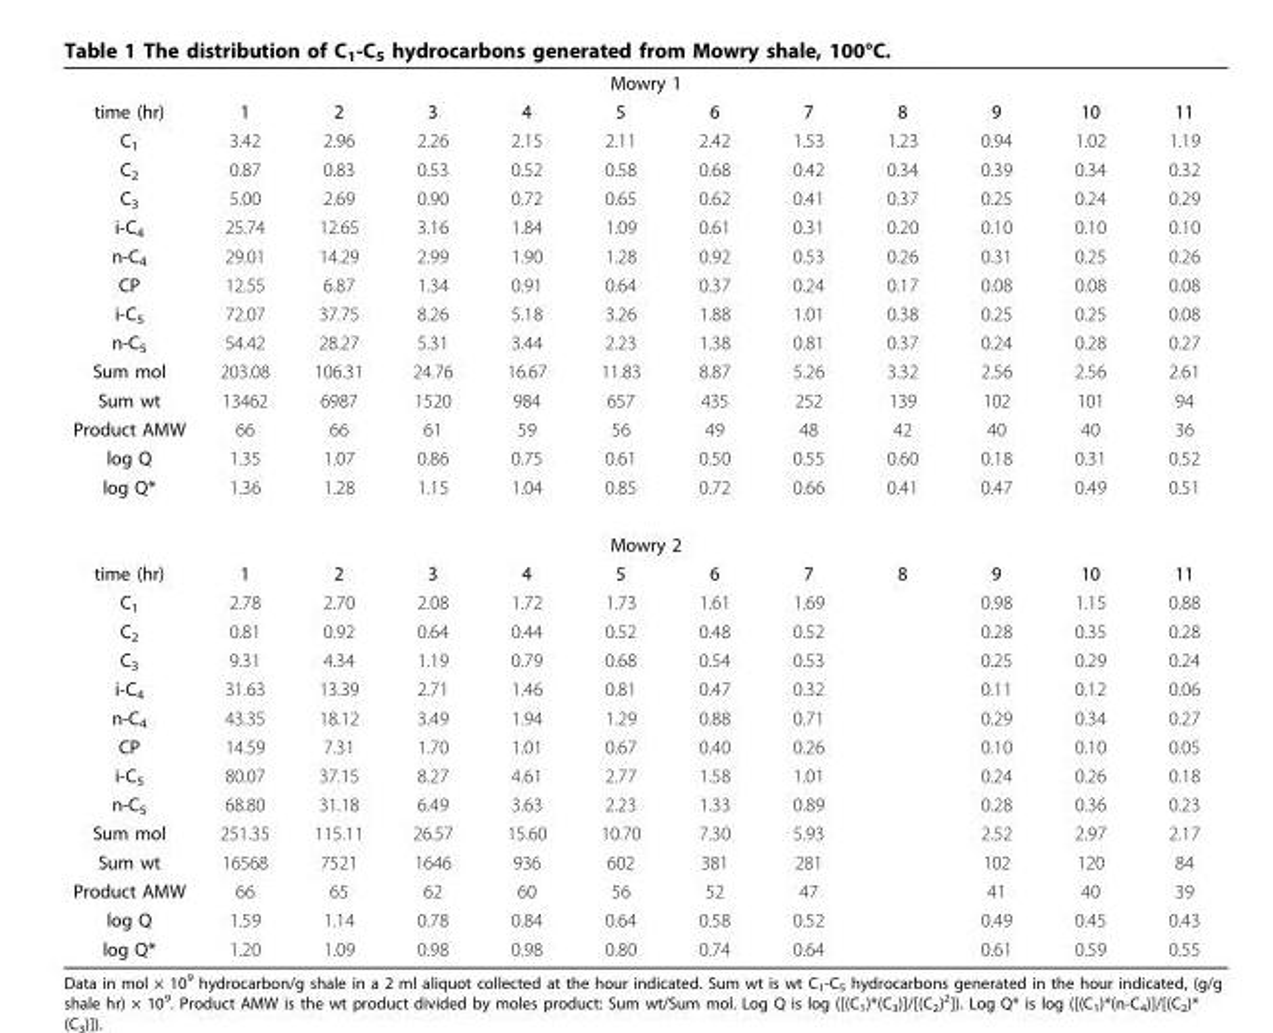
<table><thead><tr><td rowspan="2">time (hr)</td><td colspan="11">Mowry 1</td></tr><tr><td>1</td><td>2</td><td>3</td><td>4</td><td>5</td><td>6</td><td>7</td><td>8</td><td>9</td><td>10</td><td>11</td></tr></thead><tbody><tr><td>C<sub>1</sub></td><td>3.42</td><td>2.96</td><td>2.26</td><td>2.15</td><td>2.11</td><td>2.42</td><td>1.53</td><td>1.23</td><td>0.94</td><td>1.02</td><td>1.19</td></tr><tr><td>C<sub>2</sub></td><td>0.87</td><td>0.83</td><td>0.53</td><td>0.52</td><td>0.58</td><td>0.68</td><td>0.42</td><td>0.34</td><td>0.39</td><td>0.34</td><td>0.32</td></tr><tr><td>C<sub>3</sub></td><td>5.00</td><td>2.69</td><td>0.90</td><td>0.72</td><td>0.65</td><td>0.62</td><td>0.41</td><td>0.37</td><td>0.25</td><td>0.24</td><td>0.29</td></tr><tr><td>i-C<sub>4</sub></td><td>25.74</td><td>12.65</td><td>3.16</td><td>1.84</td><td>1.09</td><td>0.61</td><td>0.31</td><td>0.20</td><td>0.10</td><td>0.10</td><td>0.10</td></tr><tr><td>n-C<sub>4</sub></td><td>29.01</td><td>14.29</td><td>2.99</td><td>1.90</td><td>1.28</td><td>0.92</td><td>0.53</td><td>0.26</td><td>0.31</td><td>0.25</td><td>0.26</td></tr><tr><td>CP</td><td>12.55</td><td>6.87</td><td>1.34</td><td>0.91</td><td>0.64</td><td>0.37</td><td>0.24</td><td>0.17</td><td>0.08</td><td>0.08</td><td>0.08</td></tr><tr><td>i-C<sub>5</sub></td><td>72.07</td><td>37.75</td><td>8.26</td><td>5.18</td><td>3.26</td><td>1.88</td><td>1.01</td><td>0.38</td><td>0.25</td><td>0.25</td><td>0.08</td></tr><tr><td>n-C<sub>5</sub></td><td>54.42</td><td>28.27</td><td>5.31</td><td>3.44</td><td>2.23</td><td>1.38</td><td>0.81</td><td>0.37</td><td>0.24</td><td>0.28</td><td>0.27</td></tr><tr><td>Sum mol</td><td>203.08</td><td>106.31</td><td>24.76</td><td>16.67</td><td>11.83</td><td>8.87</td><td>5.26</td><td>3.32</td><td>2.56</td><td>2.56</td><td>2.61</td></tr><tr><td>Sum wt</td><td>13462</td><td>6987</td><td>1520</td><td>984</td><td>657</td><td>435</td><td>252</td><td>139</td><td>102</td><td>101</td><td>94</td></tr><tr><td>Product AMW</td><td>66</td><td>66</td><td>61</td><td>59</td><td>56</td><td>49</td><td>48</td><td>42</td><td>40</td><td>40</td><td>36</td></tr><tr><td>log Q</td><td>1.35</td><td>1.07</td><td>0.86</td><td>0.75</td><td>0.61</td><td>0.50</td><td>0.55</td><td>0.60</td><td>0.18</td><td>0.31</td><td>0.52</td></tr><tr><td rowspan="2">log Q*</td><td>1.36</td><td>1.28</td><td>1.15</td><td>1.04</td><td>0.85</td><td>0.72</td><td>0.66</td><td>0.41</td><td>0.47</td><td>0.49</td><td>0.51</td></tr><tr><td colspan="11">Mowry 2</td></tr><tr><td>time (hr)</td><td>1</td><td>2</td><td>3</td><td>4</td><td>5</td><td>6</td><td>7</td><td>8</td><td>9</td><td>10</td><td>11</td></tr><tr><td>C<sub>1</sub></td><td>2.78</td><td>2.70</td><td>2.08</td><td>1.72</td><td>1.73</td><td>1.61</td><td>1.69</td><td></td><td>0.98</td><td>1.15</td><td>0.88</td></tr><tr><td>C<sub>2</sub></td><td>0.81</td><td>0.92</td><td>0.64</td><td>0.44</td><td>0.52</td><td>0.48</td><td>0.52</td><td></td><td>0.28</td><td>0.35</td><td>0.28</td></tr><tr><td>C<sub>3</sub></td><td>9.31</td><td>4.34</td><td>1.19</td><td>0.79</td><td>0.68</td><td>0.54</td><td>0.53</td><td></td><td>0.25</td><td>0.29</td><td>0.24</td></tr><tr><td>i-C<sub>4</sub></td><td>31.63</td><td>13.39</td><td>2.71</td><td>1.46</td><td>0.81</td><td>0.47</td><td>0.32</td><td></td><td>0.11</td><td>0.12</td><td>0.06</td></tr><tr><td>n-C<sub>4</sub></td><td>43.35</td><td>18.12</td><td>3.49</td><td>1.94</td><td>1.29</td><td>0.88</td><td>0.71</td><td></td><td>0.29</td><td>0.34</td><td>0.27</td></tr><tr><td>CP</td><td>14.59</td><td>7.31</td><td>1.70</td><td>1.01</td><td>0.67</td><td>0.40</td><td>0.26</td><td></td><td>0.10</td><td>0.10</td><td>0.05</td></tr><tr><td>i-C<sub>5</sub></td><td>80.07</td><td>37.15</td><td>8.27</td><td>4.61</td><td>2.77</td><td>1.58</td><td>1.01</td><td></td><td>0.24</td><td>0.26</td><td>0.18</td></tr><tr><td>n-C<sub>5</sub></td><td>68.80</td><td>31.18</td><td>6.49</td><td>3.63</td><td>2.23</td><td>1.33</td><td>0.89</td><td></td><td>0.28</td><td>0.36</td><td>0.23</td></tr><tr><td>Sum mol</td><td>251.35</td><td>115.11</td><td>26.57</td><td>15.60</td><td>10.70</td><td>7.30</td><td>5.93</td><td></td><td>2.52</td><td>2.97</td><td>2.17</td></tr><tr><td>Sum wt</td><td>16568</td><td>7521</td><td>1646</td><td>936</td><td>602</td><td>381</td><td>281</td><td></td><td>102</td><td>120</td><td>84</td></tr><tr><td>Product AMW</td><td>66</td><td>65</td><td>62</td><td>60</td><td>56</td><td>52</td><td>47</td><td></td><td>41</td><td>40</td><td>39</td></tr><tr><td>log Q</td><td>1.59</td><td>1.14</td><td>0.78</td><td>0.84</td><td>0.64</td><td>0.58</td><td>0.52</td><td></td><td>0.49</td><td>0.45</td><td>0.43</td></tr><tr><td>log Q*</td><td>1.20</td><td>1.09</td><td>0.98</td><td>0.98</td><td>0.80</td><td>0.74</td><td>0.64</td><td></td><td>0.61</td><td>0.59</td><td>0.55</td></tr></tbody></table>